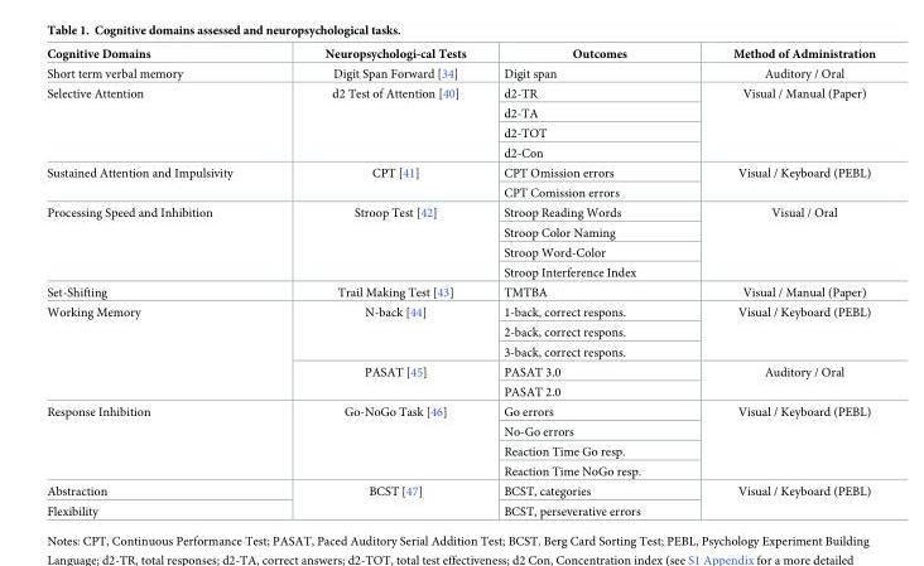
<table><thead><tr><td>Cognitive Domains</td><td>Neuropsychologi-cal Tests</td><td>Outcomes</td><td>Method of Administration</td></tr></thead><tbody><tr><td>Short term verbal memory</td><td>Digit Span Forward [34]</td><td>Digit span</td><td>Auditory / Oral</td></tr><tr><td rowspan="4">Selective Attention</td><td rowspan="4">d2 Test of Attention [40]</td><td>d2-TR</td><td rowspan="4">Visual / Manual (Paper)</td></tr><tr><td>d2-TA</td></tr><tr><td>d2-TOT</td></tr><tr><td>d2-Con</td></tr><tr><td rowspan="2">Sustained Attention and Impulsivity</td><td rowspan="2">CPT [41]</td><td>CPT Omission errors</td><td rowspan="2">Visual / Keyboard (PEBL)</td></tr><tr><td>CPT Comission errors</td></tr><tr><td rowspan="4">Processing Speed and Inhibition</td><td rowspan="4">Stroop Test [42]</td><td>Stroop Reading Words</td><td rowspan="4">Visual / Oral</td></tr><tr><td>Stroop Color Naming</td></tr><tr><td>Stroop Word-Color</td></tr><tr><td>Stroop Interference Index</td></tr><tr><td>Set-Shifting</td><td>Trail Making Test [43]</td><td>TMTBA</td><td>Visual / Manual (Paper)</td></tr><tr><td rowspan="5">Working Memory</td><td rowspan="3">N-back [44]</td><td>1-back, correct respons.</td><td rowspan="3">Visual / Keyboard (PEBL)</td></tr><tr><td>2-back, correct respons.</td></tr><tr><td>3-back, correct respons.</td></tr><tr><td rowspan="2">PASAT [45]</td><td>PASAT 3.0</td><td rowspan="2">Auditory / Oral</td></tr><tr><td>PASAT 2.0</td></tr><tr><td rowspan="4">Response Inhibition</td><td rowspan="4">Go-NoGo Task [46]</td><td>Go errors</td><td rowspan="4">Visual / Keyboard (PEBL)</td></tr><tr><td>No-Go errors</td></tr><tr><td>Reaction Time Go resp.</td></tr><tr><td>Reaction Time NoGo resp.</td></tr><tr><td>Abstraction</td><td rowspan="2">BCST [47]</td><td>BCST, categories</td><td rowspan="2">Visual / Keyboard (PEBL)</td></tr><tr><td>Flexibility</td><td>BCST, perseverative errors</td></tr></tbody></table>